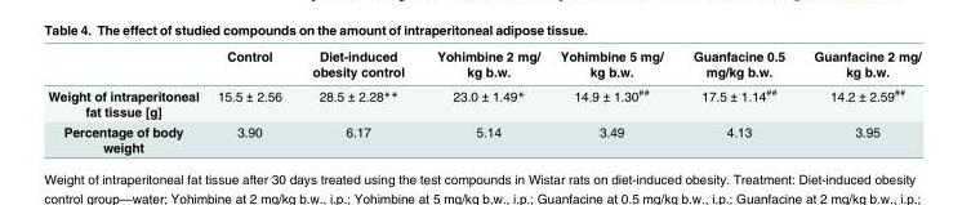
<table><thead><tr><td></td><td>Control</td><td>Diet-induced obesity control</td><td>Yohimbine 2 mg/ kg b.w.</td><td>Yohimbine 5 mg/ kg b.w.</td><td>Guanfacine 0.5 mg/kg b.w.</td><td>Guanfacine 2 mg/ kg b.w.</td></tr></thead><tbody><tr><td>Weight of intraperitoneal fat tissue [g]</td><td>15.5 ± 2.56</td><td>28.5 ± 2.28**</td><td>23.0 ± 1.49*</td><td>14.9 ± 1.30<sup>##</sup></td><td>17.5 ± 1.14<sup>##</sup></td><td>14.2 ± 2.59<sup>##</sup></td></tr><tr><td>Percentage of body weight</td><td>3.90</td><td>6.17</td><td>5.14</td><td>3.49</td><td>4.13</td><td>3.95</td></tr></tbody></table>